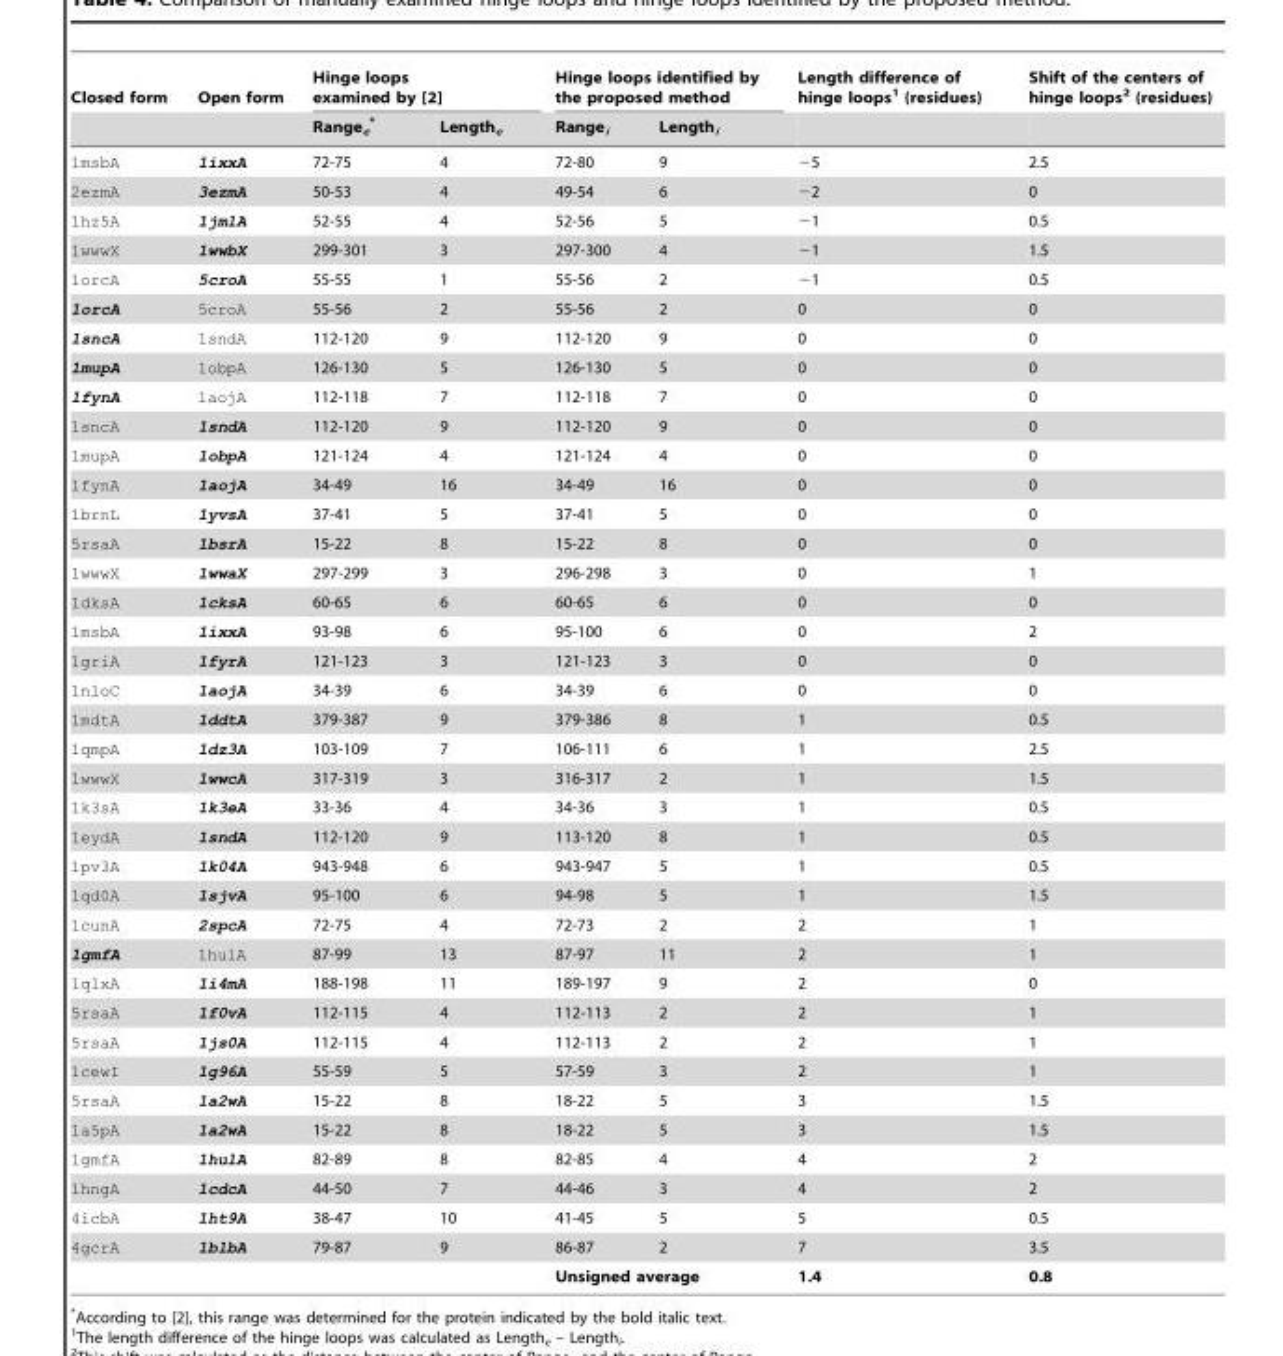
<table><thead><tr><td rowspan="2">Closed form</td><td rowspan="2">Open form</td><td colspan="2">Hinge loops examined by [2]</td><td colspan="2">Hinge loops identified by the proposed method</td><td rowspan="2">Length difference of hinge loops<sup>1</sup> (residues)</td><td rowspan="2">Shift of the centers of hinge loops<sup>2</sup> (residues)</td></tr><tr><td>Range<sub>e</sub> *</td><td>Length<sub>e</sub></td><td>Range<sub>i</sub></td><td>Length<sub>i</sub></td></tr></thead><tbody><tr><td>1msbA</td><td>1ixxA</td><td>72-75</td><td>4</td><td>72-80</td><td>9</td><td>−5</td><td>2.5</td></tr><tr><td>2ezmA</td><td>3ezmA</td><td>50-53</td><td>4</td><td>49-54</td><td>6</td><td>−2</td><td>0</td></tr><tr><td>1hz5A</td><td>1jmlA</td><td>52-55</td><td>4</td><td>52-56</td><td>5</td><td>−1</td><td>0.5</td></tr><tr><td>1wwwX</td><td>1wwbX</td><td>299-301</td><td>3</td><td>297-300</td><td>4</td><td>−1</td><td>1.5</td></tr><tr><td>1orcA</td><td>5croA</td><td>55-55</td><td>1</td><td>55-56</td><td>2</td><td>−1</td><td>0.5</td></tr><tr><td>1orcA</td><td>5croA</td><td>55-56</td><td>2</td><td>55-56</td><td>2</td><td>0</td><td>0</td></tr><tr><td>1sncA</td><td>1sndA</td><td>112-120</td><td>9</td><td>112-120</td><td>9</td><td>0</td><td>0</td></tr><tr><td>1mupA</td><td>1obpA</td><td>126-130</td><td>5</td><td>126-130</td><td>5</td><td>0</td><td>0</td></tr><tr><td>1fynA</td><td>1aojA</td><td>112-118</td><td>7</td><td>112-118</td><td>7</td><td>0</td><td>0</td></tr><tr><td>1sncA</td><td>1sndA</td><td>112-120</td><td>9</td><td>112-120</td><td>9</td><td>0</td><td>0</td></tr><tr><td>1mupA</td><td>1obpA</td><td>121-124</td><td>4</td><td>121-124</td><td>4</td><td>0</td><td>0</td></tr><tr><td>1fynA</td><td>1aojA</td><td>34-49</td><td>16</td><td>34-49</td><td>16</td><td>0</td><td>0</td></tr><tr><td>1brnL</td><td>1yvsA</td><td>37-41</td><td>5</td><td>37-41</td><td>5</td><td>0</td><td>0</td></tr><tr><td>5rsaA</td><td>1bsrA</td><td>15-22</td><td>8</td><td>15-22</td><td>8</td><td>0</td><td>0</td></tr><tr><td>1wwwX</td><td>1wwaX</td><td>297-299</td><td>3</td><td>296-298</td><td>3</td><td>0</td><td>1</td></tr><tr><td>1dksA</td><td>1cksA</td><td>60-65</td><td>6</td><td>60-65</td><td>6</td><td>0</td><td>0</td></tr><tr><td>1msbA</td><td>1ixxA</td><td>93-98</td><td>6</td><td>95-100</td><td>6</td><td>0</td><td>2</td></tr><tr><td>1griA</td><td>1fyrA</td><td>121-123</td><td>3</td><td>121-123</td><td>3</td><td>0</td><td>0</td></tr><tr><td>1nloC</td><td>1aojA</td><td>34-39</td><td>6</td><td>34-39</td><td>6</td><td>0</td><td>0</td></tr><tr><td>1mdtA</td><td>1ddtA</td><td>379-387</td><td>9</td><td>379-386</td><td>8</td><td>1</td><td>0.5</td></tr><tr><td>1qmpA</td><td>1dz3A</td><td>103-109</td><td>7</td><td>106-111</td><td>6</td><td>1</td><td>2.5</td></tr><tr><td>1wwwX</td><td>1wwcA</td><td>317-319</td><td>3</td><td>316-317</td><td>2</td><td>1</td><td>1.5</td></tr><tr><td>1k3sA</td><td>1k3eA</td><td>33-36</td><td>4</td><td>34-36</td><td>3</td><td>1</td><td>0.5</td></tr><tr><td>1eydA</td><td>1sndA</td><td>112-120</td><td>9</td><td>113-120</td><td>8</td><td>1</td><td>0.5</td></tr><tr><td>1pv3A</td><td>1k04A</td><td>943-948</td><td>6</td><td>943-947</td><td>5</td><td>1</td><td>0.5</td></tr><tr><td>1qd0A</td><td>1sjvA</td><td>95-100</td><td>6</td><td>94-98</td><td>5</td><td>1</td><td>1.5</td></tr><tr><td>1cunA</td><td>2spcA</td><td>72-75</td><td>4</td><td>72-73</td><td>2</td><td>2</td><td>1</td></tr><tr><td>1gmfA</td><td>1hulA</td><td>87-99</td><td>13</td><td>87-97</td><td>11</td><td>2</td><td>1</td></tr><tr><td>1qlxA</td><td>1i4mA</td><td>188-198</td><td>11</td><td>189-197</td><td>9</td><td>2</td><td>0</td></tr><tr><td>5rsaA</td><td>1f0vA</td><td>112-115</td><td>4</td><td>112-113</td><td>2</td><td>2</td><td>1</td></tr><tr><td>5rsaA</td><td>1js0A</td><td>112-115</td><td>4</td><td>112-113</td><td>2</td><td>2</td><td>1</td></tr><tr><td>1cewI</td><td>1g96A</td><td>55-59</td><td>5</td><td>57-59</td><td>3</td><td>2</td><td>1</td></tr><tr><td>5rsaA</td><td>1a2wA</td><td>15-22</td><td>8</td><td>18-22</td><td>5</td><td>3</td><td>1.5</td></tr><tr><td>1a5pA</td><td>1a2wA</td><td>15-22</td><td>8</td><td>18-22</td><td>5</td><td>3</td><td>1.5</td></tr><tr><td>1gmfA</td><td>1hulA</td><td>82-89</td><td>8</td><td>82-85</td><td>4</td><td>4</td><td>2</td></tr><tr><td>1hngA</td><td>1cdcA</td><td>44-50</td><td>7</td><td>44-46</td><td>3</td><td>4</td><td>2</td></tr><tr><td>4icbA</td><td>1ht9A</td><td>38-47</td><td>10</td><td>41-45</td><td>5</td><td>5</td><td>0.5</td></tr><tr><td rowspan="2">4gcrA</td><td>1blbA</td><td>79-87</td><td>9</td><td>86-87</td><td>2</td><td>7</td><td>3.5</td></tr><tr><td></td><td colspan="2"></td><td colspan="2">Unsigned average</td><td>1.4</td><td>0.8</td></tr></tbody></table>